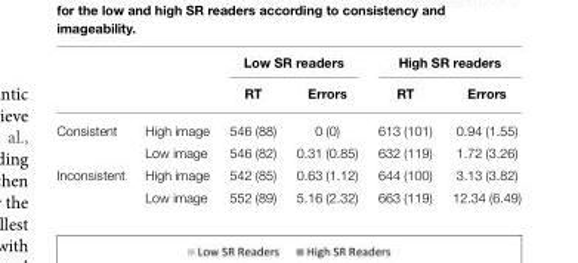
<table><thead><tr><td rowspan="2"></td><td rowspan="2"></td><td colspan="2">Low SR readers</td><td colspan="2">High SR readers</td></tr><tr><td>RT</td><td>Errors</td><td>RT</td><td>Errors</td></tr></thead><tbody><tr><td rowspan="2">Consistent</td><td>High image</td><td>546 (88)</td><td>0 (0)</td><td>613 (101)</td><td>0.94 (1.55)</td></tr><tr><td>Low image</td><td>546 (82)</td><td>0.31 (0.85)</td><td>632 (119)</td><td>1.72 (3.26)</td></tr><tr><td rowspan="2">Inconsistent</td><td>High image</td><td>542 (85)</td><td>0.63 (1.12)</td><td>644 (100)</td><td>3.13 (3.82)</td></tr><tr><td>Low image</td><td>552 (89)</td><td>5.16 (2.32)</td><td>663 (119)</td><td>12.34 (6.49)</td></tr></tbody></table>